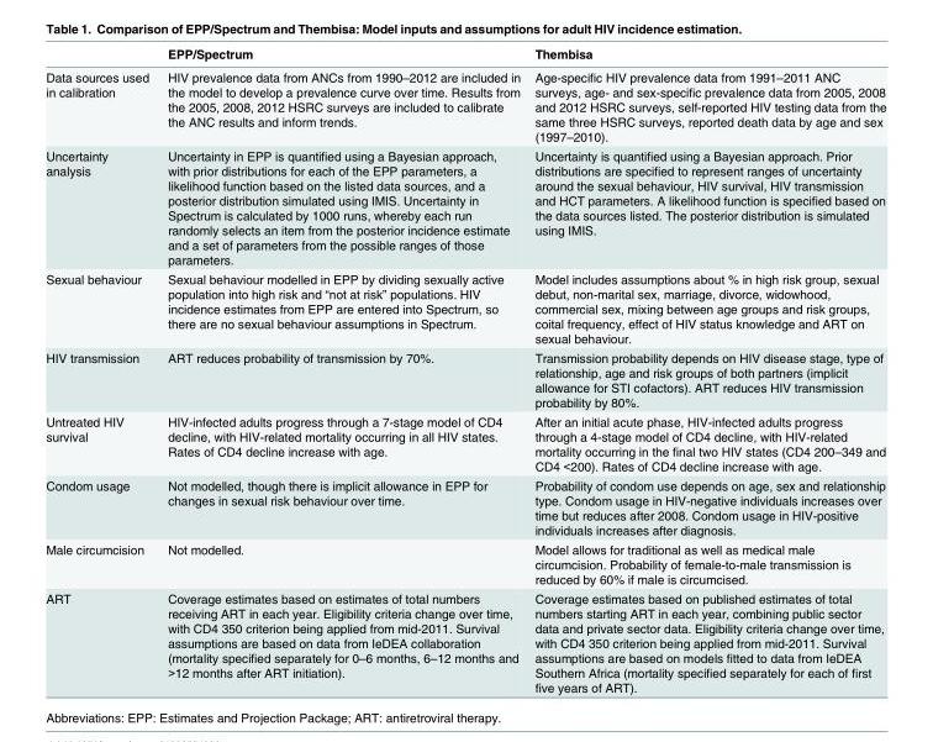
<table><thead><tr><td></td><td>EPP/Spectrum</td><td>Thembisa</td></tr></thead><tbody><tr><td>Data sources used in calibration</td><td>HIV prevalence data from ANCs from 1990–2012 are included in the model to develop a prevalence curve over time. Results from the 2005, 2008, 2012 HSRC surveys are included to calibrate the ANC results and inform trends.</td><td>Age-specific HIV prevalence data from 1991–2011 ANC surveys, age- and sex-specific prevalence data from 2005, 2008 and 2012 HSRC surveys, self-reported HIV testing data from the same three HSRC surveys, reported death data by age and sex (1997–2010).</td></tr><tr><td>Uncertainty analysis</td><td>Uncertainty in EPP is quantified using a Bayesian approach, with prior distributions for each of the EPP parameters, a likelihood function based on the listed data sources, and a posterior distribution simulated using IMIS. Uncertainty in Spectrum is calculated by 1000 runs, whereby each run randomly selects an item from the posterior incidence estimate and a set of parameters from the possible ranges of those parameters.</td><td>Uncertainty is quantified using a Bayesian approach. Prior distributions are specified to represent ranges of uncertainty around the sexual behaviour, HIV survival, HIV transmission and HCT parameters. A likelihood function is specified based on the data sources listed. The posterior distribution is simulated using IMIS.</td></tr><tr><td>Sexual behaviour</td><td>Sexual behaviour modelled in EPP by dividing sexually active population into high risk and “not at risk” populations. HIV incidence estimates from EPP are entered into Spectrum, so there are no sexual behaviour assumptions in Spectrum.</td><td>Model includes assumptions about % in high risk group, sexual debut, non-marital sex, marriage, divorce, widowhood, commercial sex, mixing between age groups and risk groups, coital frequency, effect of HIV status knowledge and ART on sexual behaviour.</td></tr><tr><td>HIV transmission</td><td>ART reduces probability of transmission by 70%.</td><td>Transmission probability depends on HIV disease stage, type of relationship, age and risk groups of both partners (implicit allowance for STI cofactors). ART reduces HIV transmission probability by 80%.</td></tr><tr><td>Untreated HIV survival</td><td>HIV-infected adults progress through a 7-stage model of CD4 decline, with HIV-related mortality occurring in all HIV states. Rates of CD4 decline increase with age.</td><td>After an initial acute phase, HIV-infected adults progress through a 4-stage model of CD4 decline, with HIV-related mortality occurring in the final two HIV states (CD4 200–349 and CD4 &lt;200). Rates of CD4 decline increase with age.</td></tr><tr><td>Condom usage</td><td>Not modelled, though there is implicit allowance in EPP for changes in sexual risk behaviour over time.</td><td>Probability of condom use depends on age, sex and relationship type. Condom usage in HIV-negative individuals increases over time but reduces after 2008. Condom usage in HIV-positive individuals increases after diagnosis.</td></tr><tr><td>Male circumcision</td><td>Not modelled.</td><td>Model allows for traditional as well as medical male circumcision. Probability of female-to-male transmission is reduced by 60% if male is circumcised.</td></tr><tr><td>ART</td><td>Coverage estimates based on estimates of total numbers receiving ART in each year. Eligibility criteria change over time, with CD4 350 criterion being applied from mid-2011. Survival assumptions are based on data from IeDEA collaboration (mortality specified separately for 0–6 months, 6–12 months and &gt;12 months after ART initiation).</td><td>Coverage estimates based on published estimates of total numbers starting ART in each year, combining public sector data and private sector data. Eligibility criteria change over time, with CD4 350 criterion being applied from mid-2011. Survival assumptions are based on models fitted to data from IeDEA Southern Africa (mortality specified separately for each of first five years of ART).</td></tr></tbody></table>